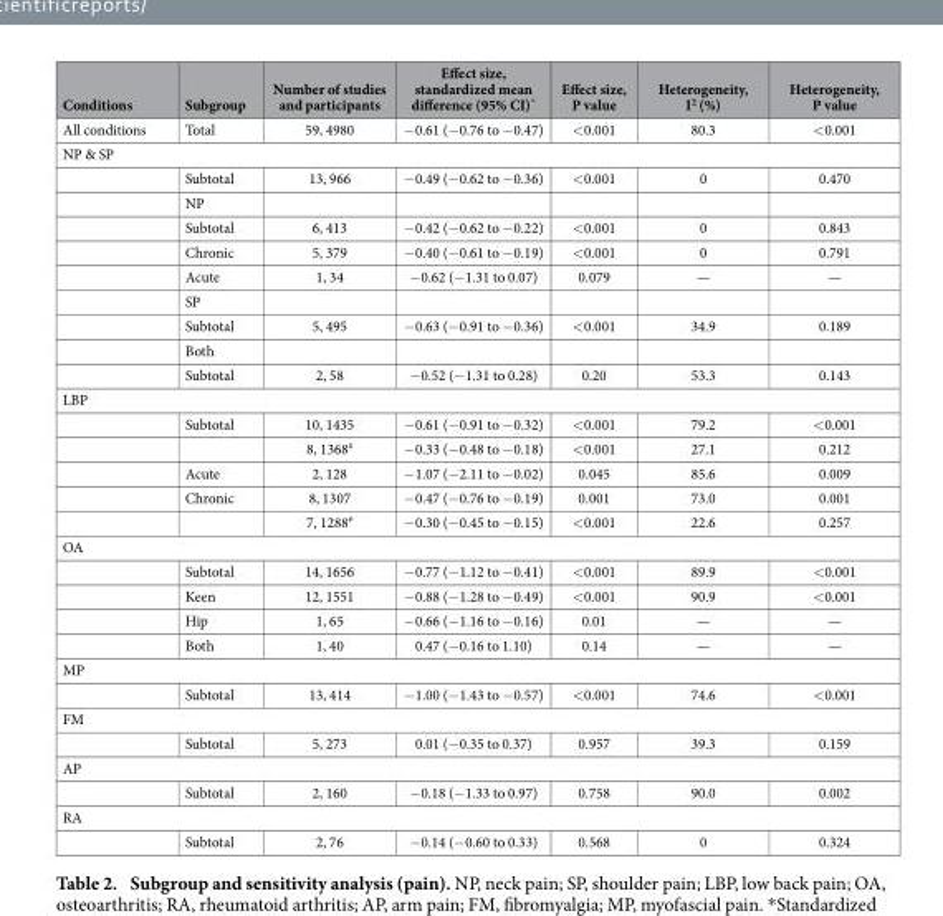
<table><thead><tr><td>Conditions</td><td>Subgroup</td><td>Number of studies and participants</td><td>Effect size, standardized mean difference (95% CI)*</td><td>Effect size, P value</td><td>Heterogeneity, I<sup>2</sup> (%)</td><td>Heterogeneity, P value</td></tr></thead><tbody><tr><td>All conditions</td><td>Total</td><td>59, 4980</td><td>− 0.61 (− 0.76 to − 0.47)</td><td>&lt; 0.001</td><td>80.3</td><td>&lt; 0.001</td></tr><tr><td colspan="7">NP &amp; SP</td></tr><tr><td></td><td>Subtotal</td><td>13, 966</td><td>− 0.49 (− 0.62 to − 0.36)</td><td>&lt; 0.001</td><td>0</td><td>0.470</td></tr><tr><td></td><td>NP</td><td></td><td></td><td></td><td></td><td></td></tr><tr><td></td><td>Subtotal</td><td>6, 413</td><td>− 0.42 (− 0.62 to − 0.22)</td><td>&lt; 0.001</td><td>0</td><td>0.843</td></tr><tr><td></td><td>Chronic</td><td>5, 379</td><td>− 0.40 (− 0.61 to − 0.19)</td><td>&lt; 0.001</td><td>0</td><td>0.791</td></tr><tr><td></td><td>Acute</td><td>1, 34</td><td>− 0.62 (− 1.31 to 0.07)</td><td>0.079</td><td>—</td><td>—</td></tr><tr><td></td><td>SP</td><td></td><td></td><td></td><td></td><td></td></tr><tr><td></td><td>Subtotal</td><td>5, 495</td><td>− 0.63 (− 0.91 to − 0.36)</td><td>&lt; 0.001</td><td>34.9</td><td>0.189</td></tr><tr><td></td><td>Both</td><td></td><td></td><td></td><td></td><td></td></tr><tr><td></td><td>Subtotal</td><td>2, 58</td><td>− 0.52 (− 1.31 to 0.28)</td><td>0.20</td><td>53.3</td><td>0.143</td></tr><tr><td colspan="7">LBP</td></tr><tr><td></td><td>Subtotal</td><td>10, 1435</td><td>− 0.61 (− 0.91 to − 0.32)</td><td>&lt; 0.001</td><td>79.2</td><td>&lt; 0.001</td></tr><tr><td></td><td></td><td>8, 1368#</td><td>− 0.33 (− 0.48 to − 0.18)</td><td>&lt; 0.001</td><td>27.1</td><td>0.212</td></tr><tr><td></td><td>Acute</td><td>2, 128</td><td>− 1.07 (− 2.11 to − 0.02)</td><td>0.045</td><td>85.6</td><td>0.009</td></tr><tr><td></td><td>Chronic</td><td>8, 1307</td><td>− 0.47 (− 0.76 to − 0.19)</td><td>0.001</td><td>73.0</td><td>0.001</td></tr><tr><td></td><td></td><td>7, 1288#</td><td>− 0.30 (− 0.45 to − 0.15)</td><td>&lt; 0.001</td><td>22.6</td><td>0.257</td></tr><tr><td colspan="7">OA</td></tr><tr><td></td><td>Subtotal</td><td>14, 1656</td><td>− 0.77 (− 1.12 to − 0.41)</td><td>&lt; 0.001</td><td>89.9</td><td>&lt; 0.001</td></tr><tr><td></td><td>Keen</td><td>12, 1551</td><td>− 0.88 (− 1.28 to − 0.49)</td><td>&lt; 0.001</td><td>90.9</td><td>&lt; 0.001</td></tr><tr><td></td><td>Hip</td><td>1, 65</td><td>− 0.66 (− 1.16 to − 0.16)</td><td>0.01</td><td>—</td><td>—</td></tr><tr><td></td><td>Both</td><td>1, 40</td><td>0.47 (− 0.16 to 1.10)</td><td>0.14</td><td>—</td><td>—</td></tr><tr><td colspan="7">MP</td></tr><tr><td></td><td>Subtotal</td><td>13, 414</td><td>− 1.00 (− 1.43 to − 0.57)</td><td>&lt; 0.001</td><td>74.6</td><td>&lt; 0.001</td></tr><tr><td colspan="7">FM</td></tr><tr><td></td><td>Subtotal</td><td>5, 273</td><td>0.01 (− 0.35 to 0.37)</td><td>0.957</td><td>39.3</td><td>0.159</td></tr><tr><td colspan="7">AP</td></tr><tr><td></td><td>Subtotal</td><td>2, 160</td><td>− 0.18 (− 1.33 to 0.97)</td><td>0.758</td><td>90.0</td><td>0.002</td></tr><tr><td colspan="7">RA</td></tr><tr><td></td><td>Subtotal</td><td>2, 76</td><td>− 0.14 (− 0.60 to 0.33)</td><td>0.568</td><td>0</td><td>0.324</td></tr></tbody></table>